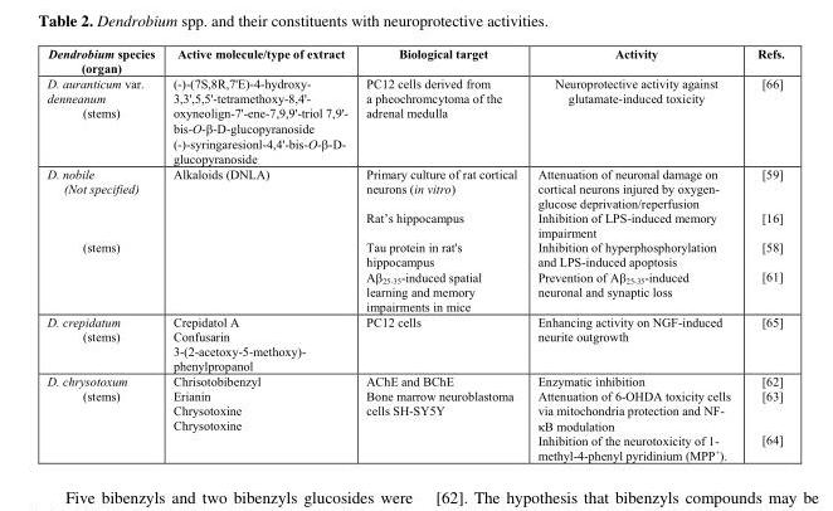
<table><thead><tr><td>Dendrobium species (organ)</td><td>Active molecule/type of extract</td><td>Biological target</td><td>Activity</td><td>Refs.</td></tr></thead><tbody><tr><td>D. auranticum var. denneanum (stems)</td><td>(-)-(7S,8R,7&#x27;E)-4-hydroxy- 3,3&#x27;,5,5&#x27;-tetramethoxy-8,4&#x27;- oxyneolign-7&#x27;-ene-7,9,9&#x27;-triol 7,9&#x27;- bis-O-β-D-glucopyranoside (-)-syringaresionl-4,4&#x27;-bis-O-β-D- glucopyranoside</td><td>PC12 cells derived from a pheochromcytoma of the adrenal medulla</td><td>Neuroprotective activity against glutamate-induced toxicity</td><td>[66]</td></tr><tr><td>D. nobile (Not specified) (stems)</td><td>Alkaloids (DNLA)</td><td>Primary culture of rat cortical neurons (in vitro) Rat’s hippocampus Tau protein in rat&#x27;s hippocampus Aβ<sub>25-35</sub>-induced spatial learning and memory impairments in mice</td><td>Attenuation of neuronal damage on cortical neurons injured by oxygen- glucose deprivation/reperfusion Inhibition of LPS-induced memory impairment Inhibition of hyperphosphorylation and LPS-induced apoptosis Prevention of Aβ<sub>25-35</sub>-induced neuronal and synaptic loss</td><td>[59] [16] [58] [61]</td></tr><tr><td>D. crepidatum (stems)</td><td>Crepidatol A Confusarin 3-(2-acetoxy-5-methoxy)- phenylpropanol</td><td>PC12 cells</td><td>Enhancing activity on NGF-induced neurite outgrowth</td><td>[65]</td></tr><tr><td>D. chrysotoxum (stems)</td><td>Chrisotobibenzyl Erianin Chrysotoxine Chrysotoxine</td><td>AChE and BChE Bone marrow neuroblastoma cells SH-SY5Y</td><td>Enzymatic inhibition Attenuation of 6-OHDA toxicity cells via mitochondria protection and NF- κB modulation Inhibition of the neurotoxicity of 1- methyl-4-phenyl pyridinium (MPP<sup>+</sup>).</td><td>[62] [63] [64]</td></tr></tbody></table>